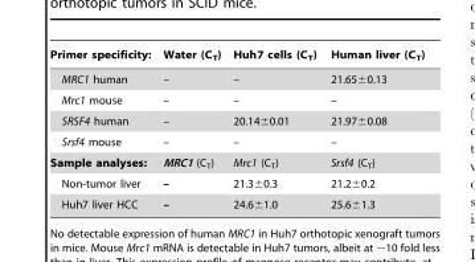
<table><thead><tr><td>Primer specificity:</td><td>Water (C<sub>T</sub>)</td><td>Huh7 cells (C<sub>T</sub>)</td><td>Human liver (C<sub>T</sub>)</td></tr></thead><tbody><tr><td>MRC1 human</td><td>–</td><td>–</td><td>21.65±0.13</td></tr><tr><td>Mrc1 mouse</td><td>–</td><td>–</td><td>–</td></tr><tr><td>SRSF4 human</td><td>–</td><td>20.14±0.01</td><td>21.97±0.08</td></tr><tr><td>Srsf4 mouse</td><td>–</td><td>–</td><td>–</td></tr><tr><td>Sample analyses:</td><td>MRC1 (C<sub>T</sub>)</td><td>Mrc1 (C<sub>T</sub>)</td><td>Srsf4 (C<sub>T</sub>)</td></tr><tr><td>Non-tumor liver</td><td>–</td><td>21.3±0.3</td><td>21.2±0.2</td></tr><tr><td>Huh7 liver HCC</td><td>–</td><td>24.6±1.0</td><td>25.6±1.3</td></tr></tbody></table>